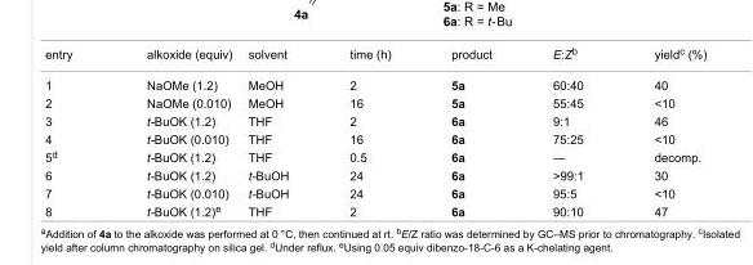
<table><tbody><tr><td>entry</td><td>alkoxide (equiv)</td><td>solvent</td><td>time (h)</td><td>product</td><td>E:Z<sup>b</sup></td><td>yield<sup>c</sup> (%)</td></tr><tr><td>1</td><td>NaOMe (1.2)</td><td>MeOH</td><td>2</td><td>5a</td><td>60:40</td><td>40</td></tr><tr><td>2</td><td>NaOMe (0.010)</td><td>MeOH</td><td>16</td><td>5a</td><td>55:45</td><td>&lt;10</td></tr><tr><td>3</td><td>t-BuOK (1.2)</td><td>THF</td><td>2</td><td>6a</td><td>9:1</td><td>46</td></tr><tr><td>4</td><td>t-BuOK (0.010)</td><td>THF</td><td>16</td><td>6a</td><td>75:25</td><td>&lt;10</td></tr><tr><td>5<sup>d</sup></td><td>t-BuOK (1.2)</td><td>THF</td><td>0.5</td><td>6a</td><td>—</td><td>decomp.</td></tr><tr><td>6</td><td>t-BuOK (1.2)</td><td>t-BuOH</td><td>24</td><td>6a</td><td>&gt;99:1</td><td>30</td></tr><tr><td>7</td><td>t-BuOK (0.010)</td><td>t-BuOH</td><td>24</td><td>6a</td><td>95:5</td><td>&lt;10</td></tr><tr><td>8</td><td>t-BuOK (1.2)<sup>e</sup></td><td>THF</td><td>2</td><td>6a</td><td>90:10</td><td>47</td></tr></tbody></table>